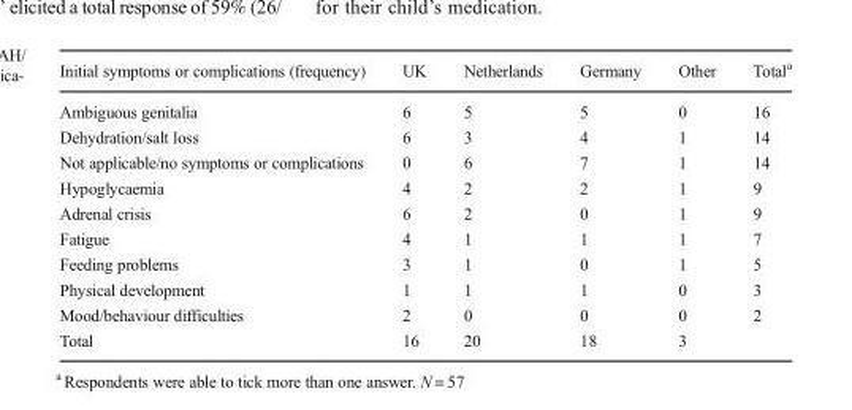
<table><thead><tr><td>Initial symptoms or complications (frequency)</td><td>UK</td><td>Netherlands</td><td>Germany</td><td>Other</td><td>Total<sup>a</sup></td></tr></thead><tbody><tr><td>Ambiguous genitalia</td><td>6</td><td>5</td><td>5</td><td>0</td><td>16</td></tr><tr><td>Dehydration/salt loss</td><td>6</td><td>3</td><td>4</td><td>1</td><td>14</td></tr><tr><td>Not applicable/no symptoms or complications</td><td>0</td><td>6</td><td>7</td><td>1</td><td>14</td></tr><tr><td>Hypoglycaemia</td><td>4</td><td>2</td><td>2</td><td>1</td><td>9</td></tr><tr><td>Adrenal crisis</td><td>6</td><td>2</td><td>0</td><td>1</td><td>9</td></tr><tr><td>Fatigue</td><td>4</td><td>1</td><td>1</td><td>1</td><td>7</td></tr><tr><td>Feeding problems</td><td>3</td><td>1</td><td>0</td><td>1</td><td>5</td></tr><tr><td>Physical development</td><td>1</td><td>1</td><td>1</td><td>0</td><td>3</td></tr><tr><td>Mood/behaviour difficulties</td><td>2</td><td>0</td><td>0</td><td>0</td><td>2</td></tr><tr><td>Total</td><td>16</td><td>20</td><td>18</td><td>3</td><td></td></tr></tbody></table>